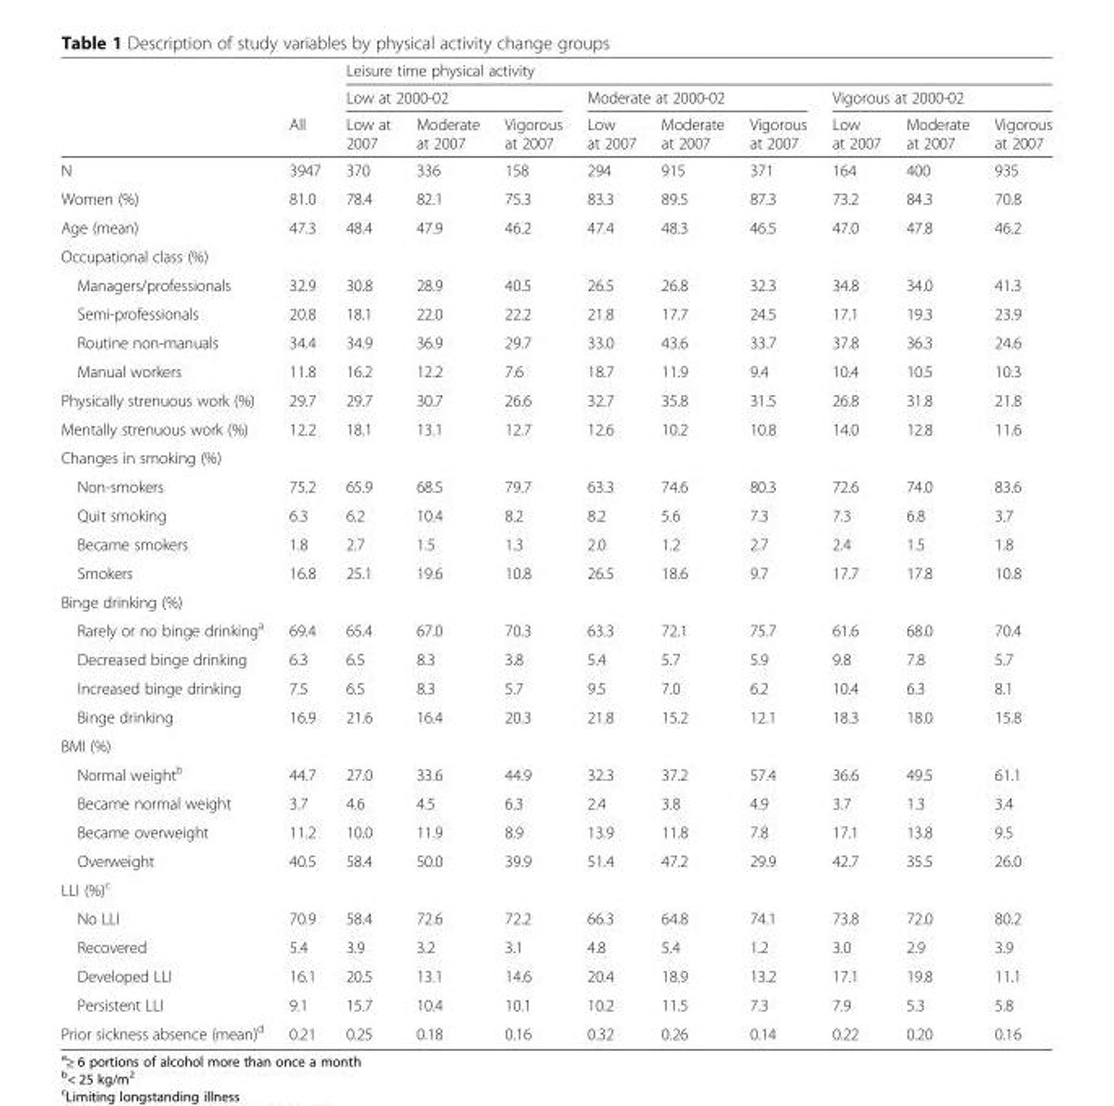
<table><thead><tr><td rowspan="3"></td><td rowspan="3">All</td><td colspan="9">Leisure time physical activity</td></tr><tr><td colspan="3">Low at 2000-02</td><td colspan="3">Moderate at 2000-02</td><td colspan="3">Vigorous at 2000-02</td></tr><tr><td>Low at 2007</td><td>Moderate at 2007</td><td>Vigorous at 2007</td><td>Low at 2007</td><td>Moderate at 2007</td><td>Vigorous at 2007</td><td>Low at 2007</td><td>Moderate at 2007</td><td>Vigorous at 2007</td></tr></thead><tbody><tr><td>N</td><td>3947</td><td>370</td><td>336</td><td>158</td><td>294</td><td>915</td><td>371</td><td>164</td><td>400</td><td>935</td></tr><tr><td>Women (%)</td><td>81.0</td><td>78.4</td><td>82.1</td><td>75.3</td><td>83.3</td><td>89.5</td><td>87.3</td><td>73.2</td><td>84.3</td><td>70.8</td></tr><tr><td>Age (mean)</td><td>47.3</td><td>48.4</td><td>47.9</td><td>46.2</td><td>47.4</td><td>48.3</td><td>46.5</td><td>47.0</td><td>47.8</td><td>46.2</td></tr><tr><td colspan="11">Occupational class (%)</td></tr><tr><td>Managers/professionals</td><td>32.9</td><td>30.8</td><td>28.9</td><td>40.5</td><td>26.5</td><td>26.8</td><td>32.3</td><td>34.8</td><td>34.0</td><td>41.3</td></tr><tr><td>Semi-professionals</td><td>20.8</td><td>18.1</td><td>22.0</td><td>22.2</td><td>21.8</td><td>17.7</td><td>24.5</td><td>17.1</td><td>19.3</td><td>23.9</td></tr><tr><td>Routine non-manuals</td><td>34.4</td><td>34.9</td><td>36.9</td><td>29.7</td><td>33.0</td><td>43.6</td><td>33.7</td><td>37.8</td><td>36.3</td><td>24.6</td></tr><tr><td>Manual workers</td><td>11.8</td><td>16.2</td><td>12.2</td><td>7.6</td><td>18.7</td><td>11.9</td><td>9.4</td><td>10.4</td><td>10.5</td><td>10.3</td></tr><tr><td>Physically strenuous work (%)</td><td>29.7</td><td>29.7</td><td>30.7</td><td>26.6</td><td>32.7</td><td>35.8</td><td>31.5</td><td>26.8</td><td>31.8</td><td>21.8</td></tr><tr><td>Mentally strenuous work (%)</td><td>12.2</td><td>18.1</td><td>13.1</td><td>12.7</td><td>12.6</td><td>10.2</td><td>10.8</td><td>14.0</td><td>12.8</td><td>11.6</td></tr><tr><td colspan="11">Changes in smoking (%)</td></tr><tr><td>Non-smokers</td><td>75.2</td><td>65.9</td><td>68.5</td><td>79.7</td><td>63.3</td><td>74.6</td><td>80.3</td><td>72.6</td><td>74.0</td><td>83.6</td></tr><tr><td>Quit smoking</td><td>6.3</td><td>6.2</td><td>10.4</td><td>8.2</td><td>8.2</td><td>5.6</td><td>7.3</td><td>7.3</td><td>6.8</td><td>3.7</td></tr><tr><td>Became smokers</td><td>1.8</td><td>2.7</td><td>1.5</td><td>1.3</td><td>2.0</td><td>1.2</td><td>2.7</td><td>2.4</td><td>1.5</td><td>1.8</td></tr><tr><td>Smokers</td><td>16.8</td><td>25.1</td><td>19.6</td><td>10.8</td><td>26.5</td><td>18.6</td><td>9.7</td><td>17.7</td><td>17.8</td><td>10.8</td></tr><tr><td colspan="11">Binge drinking (%)</td></tr><tr><td>Rarely or no binge drinking<sup>a</sup></td><td>69.4</td><td>65.4</td><td>67.0</td><td>70.3</td><td>63.3</td><td>72.1</td><td>75.7</td><td>61.6</td><td>68.0</td><td>70.4</td></tr><tr><td>Decreased binge drinking</td><td>6.3</td><td>6.5</td><td>8.3</td><td>3.8</td><td>5.4</td><td>5.7</td><td>5.9</td><td>9.8</td><td>7.8</td><td>5.7</td></tr><tr><td>Increased binge drinking</td><td>7.5</td><td>6.5</td><td>8.3</td><td>5.7</td><td>9.5</td><td>7.0</td><td>6.2</td><td>10.4</td><td>6.3</td><td>8.1</td></tr><tr><td>Binge drinking</td><td>16.9</td><td>21.6</td><td>16.4</td><td>20.3</td><td>21.8</td><td>15.2</td><td>12.1</td><td>18.3</td><td>18.0</td><td>15.8</td></tr><tr><td colspan="11">BMI (%)</td></tr><tr><td>Normal weight<sup>b</sup></td><td>44.7</td><td>27.0</td><td>33.6</td><td>44.9</td><td>32.3</td><td>37.2</td><td>57.4</td><td>36.6</td><td>49.5</td><td>61.1</td></tr><tr><td>Became normal weight</td><td>3.7</td><td>4.6</td><td>4.5</td><td>6.3</td><td>2.4</td><td>3.8</td><td>4.9</td><td>3.7</td><td>1.3</td><td>3.4</td></tr><tr><td>Became overweight</td><td>11.2</td><td>10.0</td><td>11.9</td><td>8.9</td><td>13.9</td><td>11.8</td><td>7.8</td><td>17.1</td><td>13.8</td><td>9.5</td></tr><tr><td>Overweight</td><td>40.5</td><td>58.4</td><td>50.0</td><td>39.9</td><td>51.4</td><td>47.2</td><td>29.9</td><td>42.7</td><td>35.5</td><td>26.0</td></tr><tr><td colspan="11">LLI (%)<sup>c</sup></td></tr><tr><td>No LLI</td><td>70.9</td><td>58.4</td><td>72.6</td><td>72.2</td><td>66.3</td><td>64.8</td><td>74.1</td><td>73.8</td><td>72.0</td><td>80.2</td></tr><tr><td>Recovered</td><td>5.4</td><td>3.9</td><td>3.2</td><td>3.1</td><td>4.8</td><td>5.4</td><td>1.2</td><td>3.0</td><td>2.9</td><td>3.9</td></tr><tr><td>Developed LLI</td><td>16.1</td><td>20.5</td><td>13.1</td><td>14.6</td><td>20.4</td><td>18.9</td><td>13.2</td><td>17.1</td><td>19.8</td><td>11.1</td></tr><tr><td>Persistent LLI</td><td>9.1</td><td>15.7</td><td>10.4</td><td>10.1</td><td>10.2</td><td>11.5</td><td>7.3</td><td>7.9</td><td>5.3</td><td>5.8</td></tr><tr><td>Prior sickness absence (mean)<sup>d</sup></td><td>0.21</td><td>0.25</td><td>0.18</td><td>0.16</td><td>0.32</td><td>0.26</td><td>0.14</td><td>0.22</td><td>0.20</td><td>0.16</td></tr></tbody></table>